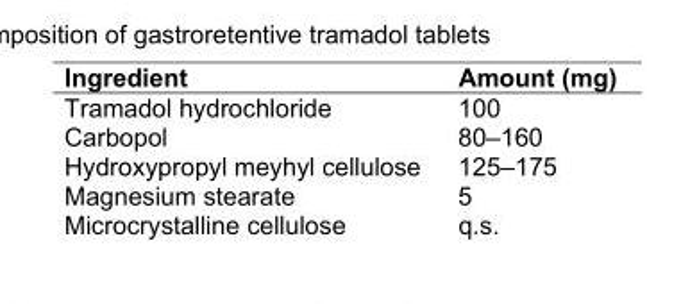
<table><thead><tr><td>Ingredient</td><td>Amount (mg)</td></tr></thead><tbody><tr><td>Tramadol hydrochloride</td><td>100</td></tr><tr><td>Carbopol</td><td>80–160</td></tr><tr><td>Hydroxypropyl meyhyl cellulose</td><td>125–175</td></tr><tr><td>Magnesium stearate</td><td>5</td></tr><tr><td>Microcrystalline cellulose</td><td>q.s.</td></tr></tbody></table>